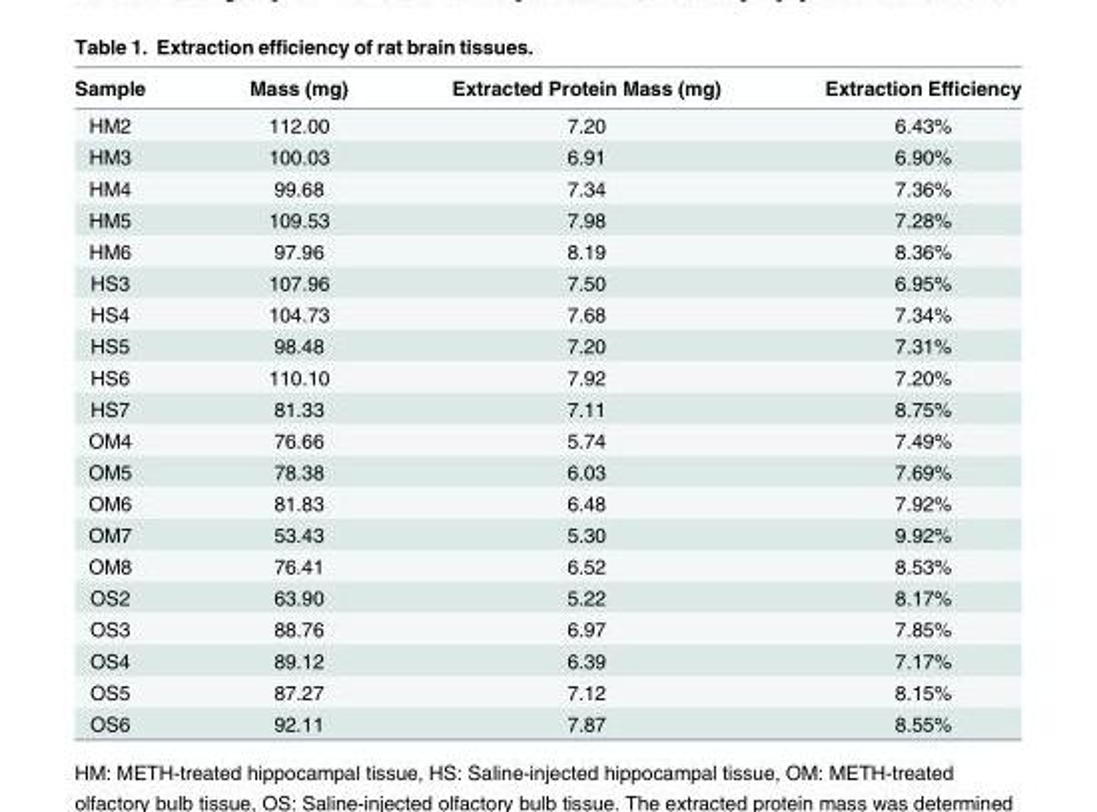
<table><thead><tr><td>Sample</td><td>Mass (mg)</td><td>Extracted Protein Mass (mg)</td><td>Extraction Efficiency</td></tr></thead><tbody><tr><td>HM2</td><td>112.00</td><td>7.20</td><td>6.43%</td></tr><tr><td>HM3</td><td>100.03</td><td>6.91</td><td>6.90%</td></tr><tr><td>HM4</td><td>99.68</td><td>7.34</td><td>7.36%</td></tr><tr><td>HM5</td><td>109.53</td><td>7.98</td><td>7.28%</td></tr><tr><td>HM6</td><td>97.96</td><td>8.19</td><td>8.36%</td></tr><tr><td>HS3</td><td>107.96</td><td>7.50</td><td>6.95%</td></tr><tr><td>HS4</td><td>104.73</td><td>7.68</td><td>7.34%</td></tr><tr><td>HS5</td><td>98.48</td><td>7.20</td><td>7.31%</td></tr><tr><td>HS6</td><td>110.10</td><td>7.92</td><td>7.20%</td></tr><tr><td>HS7</td><td>81.33</td><td>7.11</td><td>8.75%</td></tr><tr><td>OM4</td><td>76.66</td><td>5.74</td><td>7.49%</td></tr><tr><td>OM5</td><td>78.38</td><td>6.03</td><td>7.69%</td></tr><tr><td>OM6</td><td>81.83</td><td>6.48</td><td>7.92%</td></tr><tr><td>OM7</td><td>53.43</td><td>5.30</td><td>9.92%</td></tr><tr><td>OM8</td><td>76.41</td><td>6.52</td><td>8.53%</td></tr><tr><td>OS2</td><td>63.90</td><td>5.22</td><td>8.17%</td></tr><tr><td>OS3</td><td>88.76</td><td>6.97</td><td>7.85%</td></tr><tr><td>OS4</td><td>89.12</td><td>6.39</td><td>7.17%</td></tr><tr><td>OS5</td><td>87.27</td><td>7.12</td><td>8.15%</td></tr><tr><td>OS6</td><td>92.11</td><td>7.87</td><td>8.55%</td></tr></tbody></table>